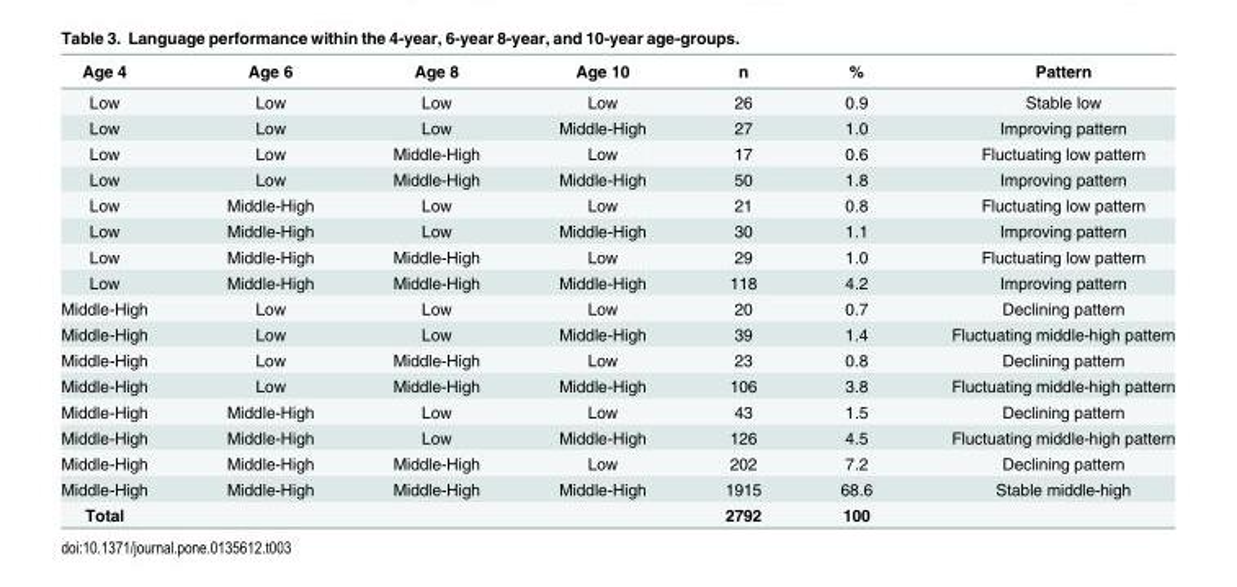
<table><thead><tr><td>Age 4</td><td>Age 6</td><td>Age 8</td><td>Age 10</td><td>n</td><td>%</td><td>Pattern</td></tr></thead><tbody><tr><td>Low</td><td>Low</td><td>Low</td><td>Low</td><td>26</td><td>0.9</td><td>Stable low</td></tr><tr><td>Low</td><td>Low</td><td>Low</td><td>Middle-High</td><td>27</td><td>1.0</td><td>Improving pattern</td></tr><tr><td>Low</td><td>Low</td><td>Middle-High</td><td>Low</td><td>17</td><td>0.6</td><td>Fluctuating low pattern</td></tr><tr><td>Low</td><td>Low</td><td>Middle-High</td><td>Middle-High</td><td>50</td><td>1.8</td><td>Improving pattern</td></tr><tr><td>Low</td><td>Middle-High</td><td>Low</td><td>Low</td><td>21</td><td>0.8</td><td>Fluctuating low pattern</td></tr><tr><td>Low</td><td>Middle-High</td><td>Low</td><td>Middle-High</td><td>30</td><td>1.1</td><td>Improving pattern</td></tr><tr><td>Low</td><td>Middle-High</td><td>Middle-High</td><td>Low</td><td>29</td><td>1.0</td><td>Fluctuating low pattern</td></tr><tr><td>Low</td><td>Middle-High</td><td>Middle-High</td><td>Middle-High</td><td>118</td><td>4.2</td><td>Improving pattern</td></tr><tr><td>Middle-High</td><td>Low</td><td>Low</td><td>Low</td><td>20</td><td>0.7</td><td>Declining pattern</td></tr><tr><td>Middle-High</td><td>Low</td><td>Low</td><td>Middle-High</td><td>39</td><td>1.4</td><td>Fluctuating middle-high pattern</td></tr><tr><td>Middle-High</td><td>Low</td><td>Middle-High</td><td>Low</td><td>23</td><td>0.8</td><td>Declining pattern</td></tr><tr><td>Middle-High</td><td>Low</td><td>Middle-High</td><td>Middle-High</td><td>106</td><td>3.8</td><td>Fluctuating middle-high pattern</td></tr><tr><td>Middle-High</td><td>Middle-High</td><td>Low</td><td>Low</td><td>43</td><td>1.5</td><td>Declining pattern</td></tr><tr><td>Middle-High</td><td>Middle-High</td><td>Low</td><td>Middle-High</td><td>126</td><td>4.5</td><td>Fluctuating middle-high pattern</td></tr><tr><td>Middle-High</td><td>Middle-High</td><td>Middle-High</td><td>Low</td><td>202</td><td>7.2</td><td>Declining pattern</td></tr><tr><td>Middle-High</td><td>Middle-High</td><td>Middle-High</td><td>Middle-High</td><td>1915</td><td>68.6</td><td>Stable middle-high</td></tr><tr><td>Total</td><td></td><td></td><td></td><td>2792</td><td>100</td><td></td></tr></tbody></table>